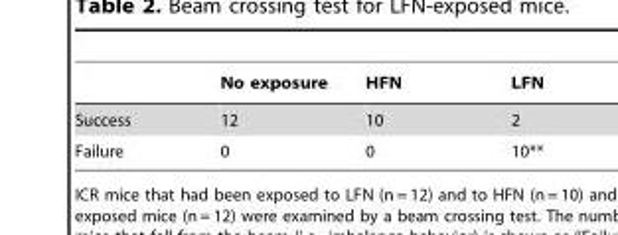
<table><thead><tr><td></td><td>No exposure</td><td>HFN</td><td>LFN</td></tr></thead><tbody><tr><td>Success</td><td>12</td><td>10</td><td>2</td></tr><tr><td>Failure</td><td>0</td><td>0</td><td>10**</td></tr></tbody></table>